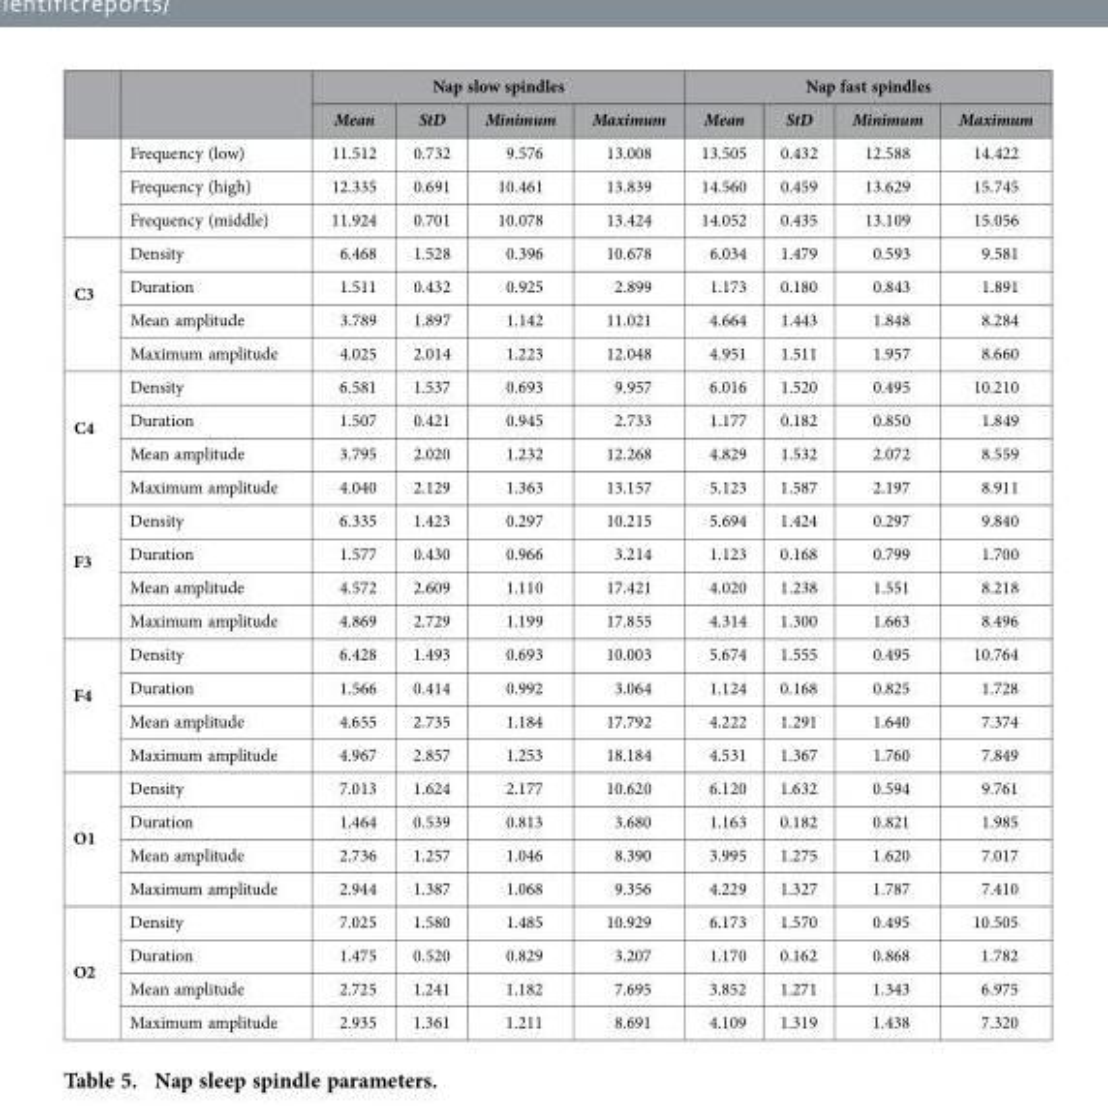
<table><thead><tr><td rowspan="2"></td><td rowspan="2"></td><td colspan="4">Nap slow spindles</td><td colspan="4">Nap fast spindles</td></tr><tr><td>Mean</td><td>StD</td><td>Minimum</td><td>Maximum</td><td>Mean</td><td>StD</td><td>Minimum</td><td>Maximum</td></tr></thead><tbody><tr><td rowspan="3"></td><td>Frequency (low)</td><td>11.512</td><td>0.732</td><td>9.576</td><td>13.008</td><td>13.505</td><td>0.432</td><td>12.588</td><td>14.422</td></tr><tr><td>Frequency (high)</td><td>12.335</td><td>0.691</td><td>10.461</td><td>13.839</td><td>14.560</td><td>0.459</td><td>13.629</td><td>15.745</td></tr><tr><td>Frequency (middle)</td><td>11.924</td><td>0.701</td><td>10.078</td><td>13.424</td><td>14.052</td><td>0.435</td><td>13.109</td><td>15.056</td></tr><tr><td rowspan="4">C3</td><td>Density</td><td>6.468</td><td>1.528</td><td>0.396</td><td>10.678</td><td>6.034</td><td>1.479</td><td>0.593</td><td>9.581</td></tr><tr><td>Duration</td><td>1.511</td><td>0.432</td><td>0.925</td><td>2.899</td><td>1.173</td><td>0.180</td><td>0.843</td><td>1.891</td></tr><tr><td>Mean amplitude</td><td>3.789</td><td>1.897</td><td>1.142</td><td>11.021</td><td>4.664</td><td>1.443</td><td>1.848</td><td>8.284</td></tr><tr><td>Maximum amplitude</td><td>4.025</td><td>2.014</td><td>1.223</td><td>12.048</td><td>4.951</td><td>1.511</td><td>1.957</td><td>8.660</td></tr><tr><td rowspan="4">C4</td><td>Density</td><td>6.581</td><td>1.537</td><td>0.693</td><td>9.957</td><td>6.016</td><td>1.520</td><td>0.495</td><td>10.210</td></tr><tr><td>Duration</td><td>1.507</td><td>0.421</td><td>0.945</td><td>2.733</td><td>1.177</td><td>0.182</td><td>0.850</td><td>1.849</td></tr><tr><td>Mean amplitude</td><td>3.795</td><td>2.020</td><td>1.232</td><td>12.268</td><td>4.829</td><td>1.532</td><td>2.072</td><td>8.559</td></tr><tr><td>Maximum amplitude</td><td>4.040</td><td>2.129</td><td>1.363</td><td>13.157</td><td>5.123</td><td>1.587</td><td>2.197</td><td>8.911</td></tr><tr><td rowspan="4">F3</td><td>Density</td><td>6.335</td><td>1.423</td><td>0.297</td><td>10.215</td><td>5.694</td><td>1.424</td><td>0.297</td><td>9.840</td></tr><tr><td>Duration</td><td>1.577</td><td>0.430</td><td>0.966</td><td>3.214</td><td>1.123</td><td>0.168</td><td>0.799</td><td>1.700</td></tr><tr><td>Mean amplitude</td><td>4.572</td><td>2.609</td><td>1.110</td><td>17.421</td><td>4.020</td><td>1.238</td><td>1.551</td><td>8.218</td></tr><tr><td>Maximum amplitude</td><td>4.869</td><td>2.729</td><td>1.199</td><td>17.855</td><td>4.314</td><td>1.300</td><td>1.663</td><td>8.496</td></tr><tr><td rowspan="4">F4</td><td>Density</td><td>6.428</td><td>1.493</td><td>0.693</td><td>10.003</td><td>5.674</td><td>1.555</td><td>0.495</td><td>10.764</td></tr><tr><td>Duration</td><td>1.566</td><td>0.414</td><td>0.992</td><td>3.064</td><td>1.124</td><td>0.168</td><td>0.825</td><td>1.728</td></tr><tr><td>Mean amplitude</td><td>4.655</td><td>2.735</td><td>1.184</td><td>17.792</td><td>4.222</td><td>1.291</td><td>1.640</td><td>7.374</td></tr><tr><td>Maximum amplitude</td><td>4.967</td><td>2.857</td><td>1.253</td><td>18.184</td><td>4.531</td><td>1.367</td><td>1.760</td><td>7.849</td></tr><tr><td rowspan="4">O1</td><td>Density</td><td>7.013</td><td>1.624</td><td>2.177</td><td>10.620</td><td>6.120</td><td>1.632</td><td>0.594</td><td>9.761</td></tr><tr><td>Duration</td><td>1.464</td><td>0.539</td><td>0.813</td><td>3.680</td><td>1.163</td><td>0.182</td><td>0.821</td><td>1.985</td></tr><tr><td>Mean amplitude</td><td>2.736</td><td>1.257</td><td>1.046</td><td>8.390</td><td>3.995</td><td>1.275</td><td>1.620</td><td>7.017</td></tr><tr><td>Maximum amplitude</td><td>2.944</td><td>1.387</td><td>1.068</td><td>9.356</td><td>4.229</td><td>1.327</td><td>1.787</td><td>7.410</td></tr><tr><td rowspan="4">O2</td><td>Density</td><td>7.025</td><td>1.580</td><td>1.485</td><td>10.929</td><td>6.173</td><td>1.570</td><td>0.495</td><td>10.505</td></tr><tr><td>Duration</td><td>1.475</td><td>0.520</td><td>0.829</td><td>3.207</td><td>1.170</td><td>0.162</td><td>0.868</td><td>1.782</td></tr><tr><td>Mean amplitude</td><td>2.725</td><td>1.241</td><td>1.182</td><td>7.695</td><td>3.852</td><td>1.271</td><td>1.343</td><td>6.975</td></tr><tr><td>Maximum amplitude</td><td>2.935</td><td>1.361</td><td>1.211</td><td>8.691</td><td>4.109</td><td>1.319</td><td>1.438</td><td>7.320</td></tr></tbody></table>